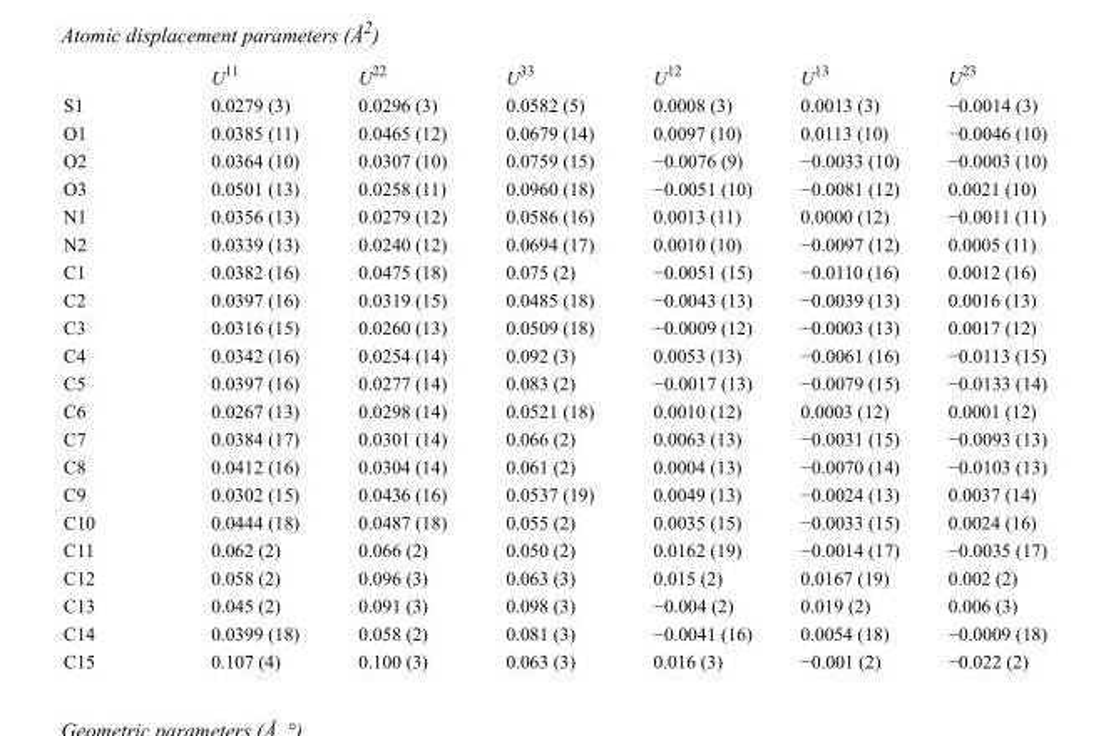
<table><thead><tr><td></td><td>U<sup>11</sup></td><td>U<sup>22</sup></td><td>U<sup>33</sup></td><td>U<sup>12</sup></td><td>U<sup>13</sup></td><td>U<sup>23</sup></td></tr></thead><tbody><tr><td>S1</td><td>0.0279 (3)</td><td>0.0296 (3)</td><td>0.0582 (5)</td><td>0.0008 (3)</td><td>0.0013 (3)</td><td>−0.0014 (3)</td></tr><tr><td>O1</td><td>0.0385 (11)</td><td>0.0465 (12)</td><td>0.0679 (14)</td><td>0.0097 (10)</td><td>0.0113 (10)</td><td>−0.0046 (10)</td></tr><tr><td>O2</td><td>0.0364 (10)</td><td>0.0307 (10)</td><td>0.0759 (15)</td><td>−0.0076 (9)</td><td>−0.0033 (10)</td><td>−0.0003 (10)</td></tr><tr><td>O3</td><td>0.0501 (13)</td><td>0.0258 (11)</td><td>0.0960 (18)</td><td>−0.0051 (10)</td><td>−0.0081 (12)</td><td>0.0021 (10)</td></tr><tr><td>N1</td><td>0.0356 (13)</td><td>0.0279 (12)</td><td>0.0586 (16)</td><td>0.0013 (11)</td><td>0.0000 (12)</td><td>−0.0011 (11)</td></tr><tr><td>N2</td><td>0.0339 (13)</td><td>0.0240 (12)</td><td>0.0694 (17)</td><td>0.0010 (10)</td><td>−0.0097 (12)</td><td>0.0005 (11)</td></tr><tr><td>C1</td><td>0.0382 (16)</td><td>0.0475 (18)</td><td>0.075 (2)</td><td>−0.0051 (15)</td><td>−0.0110 (16)</td><td>0.0012 (16)</td></tr><tr><td>C2</td><td>0.0397 (16)</td><td>0.0319 (15)</td><td>0.0485 (18)</td><td>−0.0043 (13)</td><td>−0.0039 (13)</td><td>0.0016 (13)</td></tr><tr><td>C3</td><td>0.0316 (15)</td><td>0.0260 (13)</td><td>0.0509 (18)</td><td>−0.0009 (12)</td><td>−0.0003 (13)</td><td>0.0017 (12)</td></tr><tr><td>C4</td><td>0.0342 (16)</td><td>0.0254 (14)</td><td>0.092 (3)</td><td>0.0053 (13)</td><td>−0.0061 (16)</td><td>−0.0113 (15)</td></tr><tr><td>C5</td><td>0.0397 (16)</td><td>0.0277 (14)</td><td>0.083 (2)</td><td>−0.0017 (13)</td><td>−0.0079 (15)</td><td>−0.0133 (14)</td></tr><tr><td>C6</td><td>0.0267 (13)</td><td>0.0298 (14)</td><td>0.0521 (18)</td><td>0.0010 (12)</td><td>0.0003 (12)</td><td>0.0001 (12)</td></tr><tr><td>C7</td><td>0.0384 (17)</td><td>0.0301 (14)</td><td>0.066 (2)</td><td>0.0063 (13)</td><td>−0.0031 (15)</td><td>−0.0093 (13)</td></tr><tr><td>C8</td><td>0.0412 (16)</td><td>0.0304 (14)</td><td>0.061 (2)</td><td>0.0004 (13)</td><td>−0.0070 (14)</td><td>−0.0103 (13)</td></tr><tr><td>C9</td><td>0.0302 (15)</td><td>0.0436 (16)</td><td>0.0537 (19)</td><td>0.0049 (13)</td><td>−0.0024 (13)</td><td>0.0037 (14)</td></tr><tr><td>C10</td><td>0.0444 (18)</td><td>0.0487 (18)</td><td>0.055 (2)</td><td>0.0035 (15)</td><td>−0.0033 (15)</td><td>0.0024 (16)</td></tr><tr><td>C11</td><td>0.062 (2)</td><td>0.066 (2)</td><td>0.050 (2)</td><td>0.0162 (19)</td><td>−0.0014 (17)</td><td>−0.0035 (17)</td></tr><tr><td>C12</td><td>0.058 (2)</td><td>0.096 (3)</td><td>0.063 (3)</td><td>0.015 (2)</td><td>0.0167 (19)</td><td>0.002 (2)</td></tr><tr><td>C13</td><td>0.045 (2)</td><td>0.091 (3)</td><td>0.098 (3)</td><td>−0.004 (2)</td><td>0.019 (2)</td><td>0.006 (3)</td></tr><tr><td>C14</td><td>0.0399 (18)</td><td>0.058 (2)</td><td>0.081 (3)</td><td>−0.0041 (16)</td><td>0.0054 (18)</td><td>−0.0009 (18)</td></tr><tr><td>C15</td><td>0.107 (4)</td><td>0.100 (3)</td><td>0.063 (3)</td><td>0.016 (3)</td><td>−0.001 (2)</td><td>−0.022 (2)</td></tr></tbody></table>